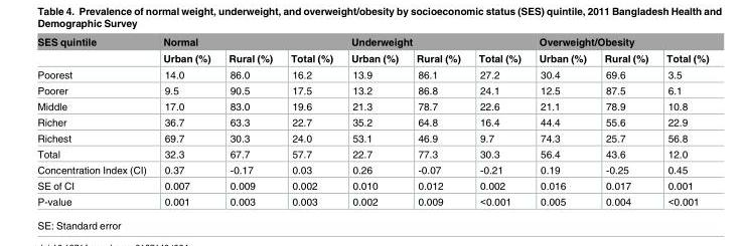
<table><thead><tr><td rowspan="2">SES quintile</td><td colspan="3">Normal</td><td colspan="3">Underweight</td><td colspan="3">Overweight/Obesity</td></tr><tr><td>Urban (%)</td><td>Rural (%)</td><td>Total (%)</td><td>Urban (%)</td><td>Rural (%)</td><td>Total (%)</td><td>Urban (%)</td><td>Rural (%)</td><td>Total (%)</td></tr></thead><tbody><tr><td>Poorest</td><td>14.0</td><td>86.0</td><td>16.2</td><td>13.9</td><td>86.1</td><td>27.2</td><td>30.4</td><td>69.6</td><td>3.5</td></tr><tr><td>Poorer</td><td>9.5</td><td>90.5</td><td>17.5</td><td>13.2</td><td>86.8</td><td>24.1</td><td>12.5</td><td>87.5</td><td>6.1</td></tr><tr><td>Middle</td><td>17.0</td><td>83.0</td><td>19.6</td><td>21.3</td><td>78.7</td><td>22.6</td><td>21.1</td><td>78.9</td><td>10.8</td></tr><tr><td>Richer</td><td>36.7</td><td>63.3</td><td>22.7</td><td>35.2</td><td>64.8</td><td>16.4</td><td>44.4</td><td>55.6</td><td>22.9</td></tr><tr><td>Richest</td><td>69.7</td><td>30.3</td><td>24.0</td><td>53.1</td><td>46.9</td><td>9.7</td><td>74.3</td><td>25.7</td><td>56.8</td></tr><tr><td>Total</td><td>32.3</td><td>67.7</td><td>57.7</td><td>22.7</td><td>77.3</td><td>30.3</td><td>56.4</td><td>43.6</td><td>12.0</td></tr><tr><td>Concentration Index (CI)</td><td>0.37</td><td>-0.17</td><td>0.03</td><td>0.26</td><td>-0.07</td><td>-0.21</td><td>0.19</td><td>-0.25</td><td>0.45</td></tr><tr><td>SE of CI</td><td>0.007</td><td>0.009</td><td>0.002</td><td>0.010</td><td>0.012</td><td>0.002</td><td>0.016</td><td>0.017</td><td>0.001</td></tr><tr><td>P-value</td><td>0.001</td><td>0.003</td><td>0.003</td><td>0.002</td><td>0.009</td><td>&lt;0.001</td><td>0.005</td><td>0.004</td><td>&lt;0.001</td></tr></tbody></table>